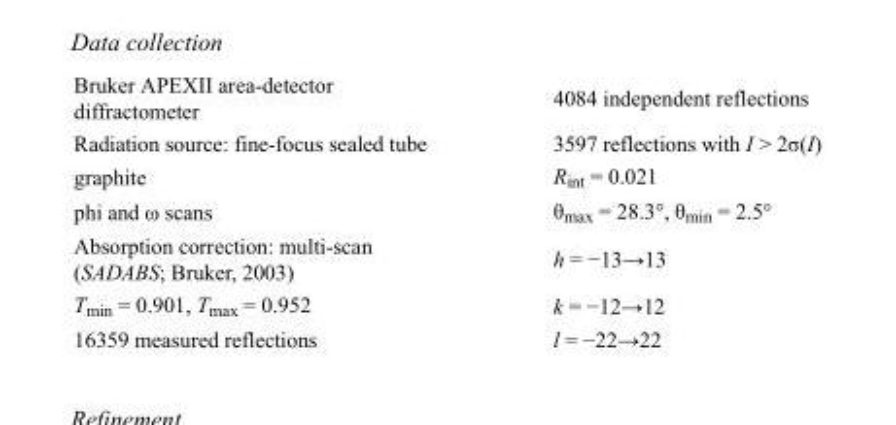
<table><tbody><tr><td>Bruker APEXII area-detector diffractometer</td><td>4084 independent reflections</td></tr><tr><td>Radiation source: fine-focus sealed tube</td><td>3597 reflections with I &gt; 2σ(I)</td></tr><tr><td>graphite</td><td>R<sub>int</sub> = 0.021</td></tr><tr><td>phi and ω scans</td><td>θ<sub>max</sub> = 28.3°, θ<sub>min</sub> = 2.5°</td></tr><tr><td>Absorption correction: multi-scan (SADABS; Bruker, 2003)</td><td>h = −13→13</td></tr><tr><td>T<sub>min</sub> = 0.901, T<sub>max</sub> = 0.952</td><td>k = −12→12</td></tr><tr><td>16359 measured reflections</td><td>l = −22→22</td></tr></tbody></table>